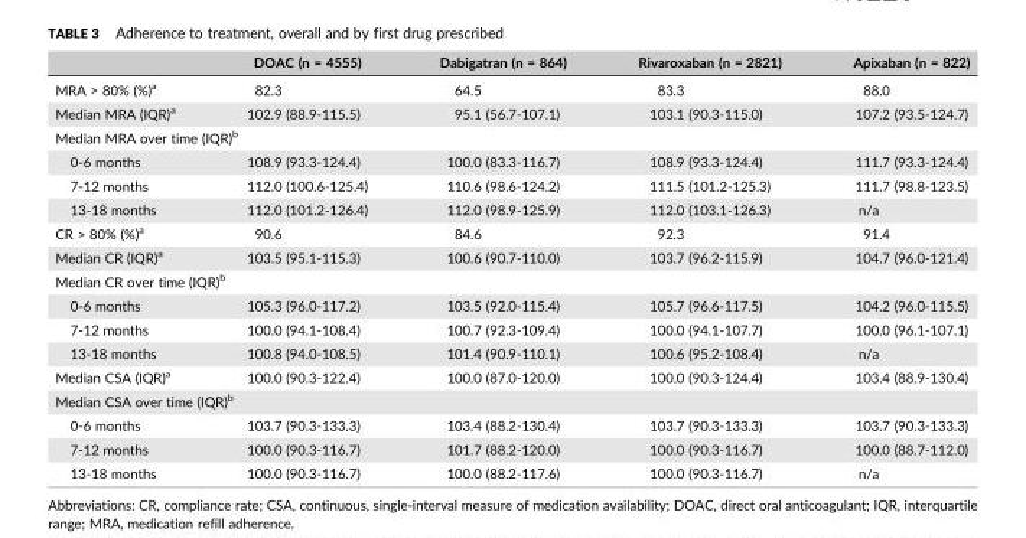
<table><thead><tr><td></td><td>DOAC (n = 4555)</td><td>Dabigatran (n = 864)</td><td>Rivaroxaban (n = 2821)</td><td>Apixaban (n = 822)</td></tr></thead><tbody><tr><td>MRA &gt; 80% (%)<sup>a</sup></td><td>82.3</td><td>64.5</td><td>83.3</td><td>88.0</td></tr><tr><td>Median MRA (IQR)<sup>a</sup></td><td>102.9 (88.9‐115.5)</td><td>95.1 (56.7‐107.1)</td><td>103.1 (90.3‐115.0)</td><td>107.2 (93.5‐124.7)</td></tr><tr><td colspan="5">Median MRA over time (IQR)<sup>b</sup></td></tr><tr><td>0‐6 months</td><td>108.9 (93.3‐124.4)</td><td>100.0 (83.3‐116.7)</td><td>108.9 (93.3‐124.4)</td><td>111.7 (93.3‐124.4)</td></tr><tr><td>7‐12 months</td><td>112.0 (100.6‐125.4)</td><td>110.6 (98.6‐124.2)</td><td>111.5 (101.2‐125.3)</td><td>111.7 (98.8‐123.5)</td></tr><tr><td>13‐18 months</td><td>112.0 (101.2‐126.4)</td><td>112.0 (98.9‐125.9)</td><td>112.0 (103.1‐126.3)</td><td>n/a</td></tr><tr><td>CR &gt; 80% (%)<sup>a</sup></td><td>90.6</td><td>84.6</td><td>92.3</td><td>91.4</td></tr><tr><td>Median CR (IQR)<sup>a</sup></td><td>103.5 (95.1‐115.3)</td><td>100.6 (90.7‐110.0)</td><td>103.7 (96.2‐115.9)</td><td>104.7 (96.0‐121.4)</td></tr><tr><td colspan="5">Median CR over time (IQR)<sup>b</sup></td></tr><tr><td>0‐6 months</td><td>105.3 (96.0‐117.2)</td><td>103.5 (92.0‐115.4)</td><td>105.7 (96.6‐117.5)</td><td>104.2 (96.0‐115.5)</td></tr><tr><td>7‐12 months</td><td>100.0 (94.1‐108.4)</td><td>100.7 (92.3‐109.4)</td><td>100.0 (94.1‐107.7)</td><td>100.0 (96.1‐107.1)</td></tr><tr><td>13‐18 months</td><td>100.8 (94.0‐108.5)</td><td>101.4 (90.9‐110.1)</td><td>100.6 (95.2‐108.4)</td><td>n/a</td></tr><tr><td>Median CSA (IQR)<sup>a</sup></td><td>100.0 (90.3‐122.4)</td><td>100.0 (87.0‐120.0)</td><td>100.0 (90.3‐124.4)</td><td>103.4 (88.9‐130.4)</td></tr><tr><td colspan="5">Median CSA over time (IQR)<sup>b</sup></td></tr><tr><td>0‐6 months</td><td>103.7 (90.3‐133.3)</td><td>103.4 (88.2‐130.4)</td><td>103.7 (90.3‐133.3)</td><td>103.7 (90.3‐133.3)</td></tr><tr><td>7‐12 months</td><td>100.0 (90.3‐116.7)</td><td>101.7 (88.2‐120.0)</td><td>100.0 (90.3‐116.7)</td><td>100.0 (88.7‐112.0)</td></tr><tr><td>13‐18 months</td><td>100.0 (90.3‐116.7)</td><td>100.0 (88.2‐117.6)</td><td>100.0 (90.3‐116.7)</td><td>n/a</td></tr></tbody></table>